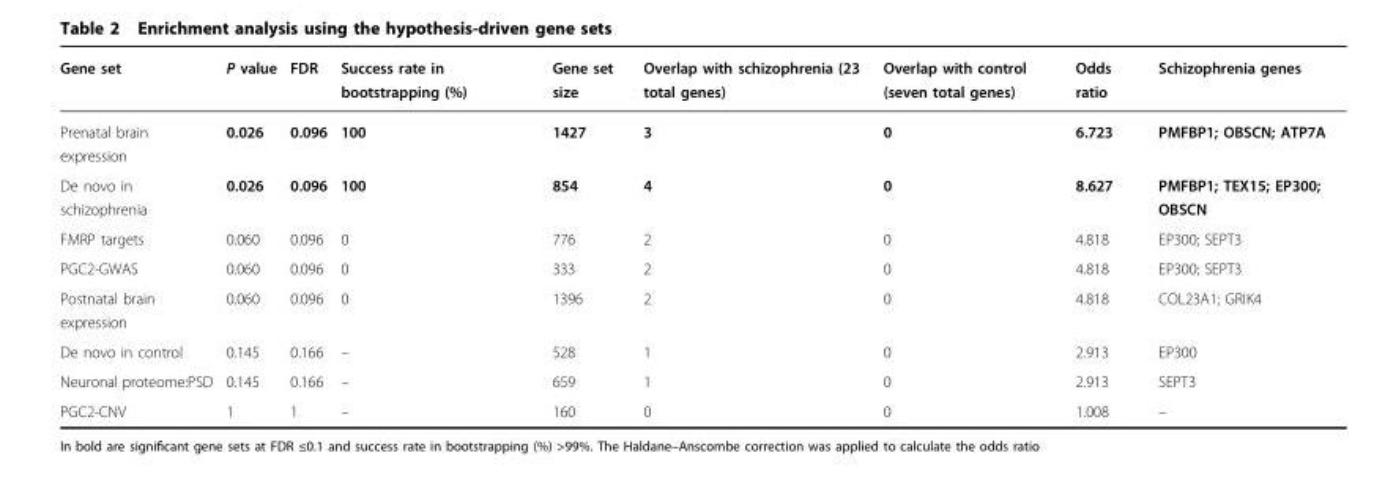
<table><thead><tr><td>Gene set</td><td>P value</td><td>FDR</td><td>Success rate in bootstrapping (%)</td><td>Gene set size</td><td>Overlap with schizophrenia (23 total genes)</td><td>Overlap with control (seven total genes)</td><td>Odds ratio</td><td>Schizophrenia genes</td></tr></thead><tbody><tr><td>Prenatal brain expression</td><td>0.026</td><td>0.096</td><td>100</td><td>1427</td><td>3</td><td>0</td><td>6.723</td><td>PMFBP1; OBSCN; ATP7A</td></tr><tr><td>De novo in schizophrenia</td><td>0.026</td><td>0.096</td><td>100</td><td>854</td><td>4</td><td>0</td><td>8.627</td><td>PMFBP1; TEX15; EP300; OBSCN</td></tr><tr><td>FMRP targets</td><td>0.060</td><td>0.096</td><td>0</td><td>776</td><td>2</td><td>0</td><td>4.818</td><td>EP300; SEPT3</td></tr><tr><td>PGC2-GWAS</td><td>0.060</td><td>0.096</td><td>0</td><td>333</td><td>2</td><td>0</td><td>4.818</td><td>EP300; SEPT3</td></tr><tr><td>Postnatal brain expression</td><td>0.060</td><td>0.096</td><td>0</td><td>1396</td><td>2</td><td>0</td><td>4.818</td><td>COL23A1; GRIK4</td></tr><tr><td>De novo in control</td><td>0.145</td><td>0.166</td><td>–</td><td>528</td><td>1</td><td>0</td><td>2.913</td><td>EP300</td></tr><tr><td>Neuronal proteome:PSD</td><td>0.145</td><td>0.166</td><td>–</td><td>659</td><td>1</td><td>0</td><td>2.913</td><td>SEPT3</td></tr><tr><td>PGC2-CNV</td><td>1</td><td>1</td><td>–</td><td>160</td><td>0</td><td>0</td><td>1.008</td><td>–</td></tr></tbody></table>